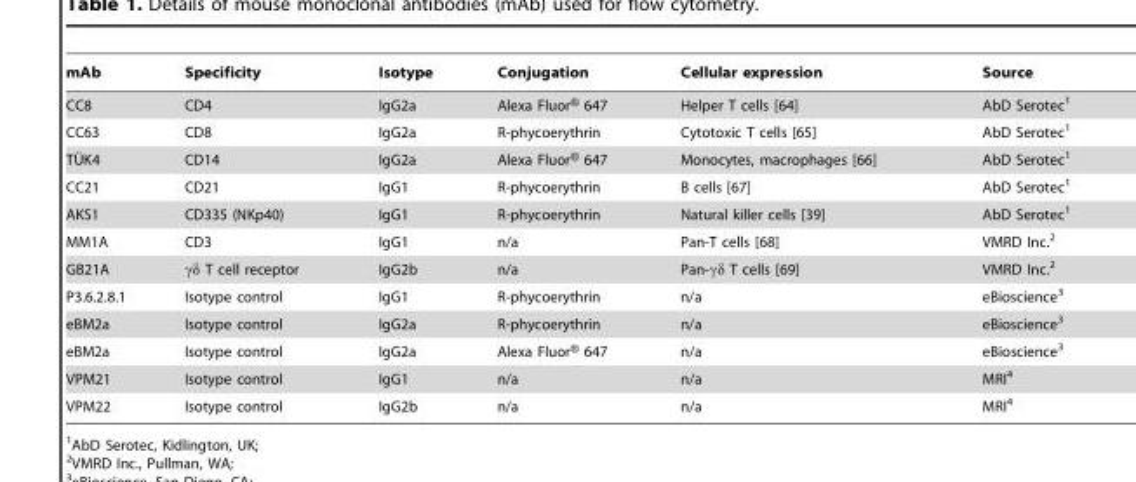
<table><thead><tr><td>mAb</td><td>Specificity</td><td>Isotype</td><td>Conjugation</td><td>Cellular expression</td><td>Source</td></tr></thead><tbody><tr><td>CC8</td><td>CD4</td><td>IgG2a</td><td>Alexa Fluor® 647</td><td>Helper T cells [64]</td><td>AbD Serotec<sup>1</sup></td></tr><tr><td>CC63</td><td>CD8</td><td>IgG2a</td><td>R-phycoerythrin</td><td>Cytotoxic T cells [65]</td><td>AbD Serotec<sup>1</sup></td></tr><tr><td>TU¨ K4</td><td>CD14</td><td>IgG2a</td><td>Alexa Fluor® 647</td><td>Monocytes, macrophages [66]</td><td>AbD Serotec<sup>1</sup></td></tr><tr><td>CC21</td><td>CD21</td><td>IgG1</td><td>R-phycoerythrin</td><td>B cells [67]</td><td>AbD Serotec<sup>1</sup></td></tr><tr><td>AKS1</td><td>CD335 (NKp40)</td><td>IgG1</td><td>R-phycoerythrin</td><td>Natural killer cells [39]</td><td>AbD Serotec<sup>1</sup></td></tr><tr><td>MM1A</td><td>CD3</td><td>IgG1</td><td>n/a</td><td>Pan-T cells [68]</td><td>VMRD Inc.<sup>2</sup></td></tr><tr><td>GB21A</td><td>γδ T cell receptor</td><td>IgG2b</td><td>n/a</td><td>Pan-γδ T cells [69]</td><td>VMRD Inc.<sup>2</sup></td></tr><tr><td>P3.6.2.8.1</td><td>Isotype control</td><td>IgG1</td><td>R-phycoerythrin</td><td>n/a</td><td>eBioscience<sup>3</sup></td></tr><tr><td>eBM2a</td><td>Isotype control</td><td>IgG2a</td><td>R-phycoerythrin</td><td>n/a</td><td>eBioscience<sup>3</sup></td></tr><tr><td>eBM2a</td><td>Isotype control</td><td>IgG2a</td><td>Alexa Fluor® 647</td><td>n/a</td><td>eBioscience<sup>3</sup></td></tr><tr><td>VPM21</td><td>Isotype control</td><td>IgG1</td><td>n/a</td><td>n/a</td><td>MRI<sup>4</sup></td></tr><tr><td>VPM22</td><td>Isotype control</td><td>IgG2b</td><td>n/a</td><td>n/a</td><td>MRI<sup>4</sup></td></tr></tbody></table>